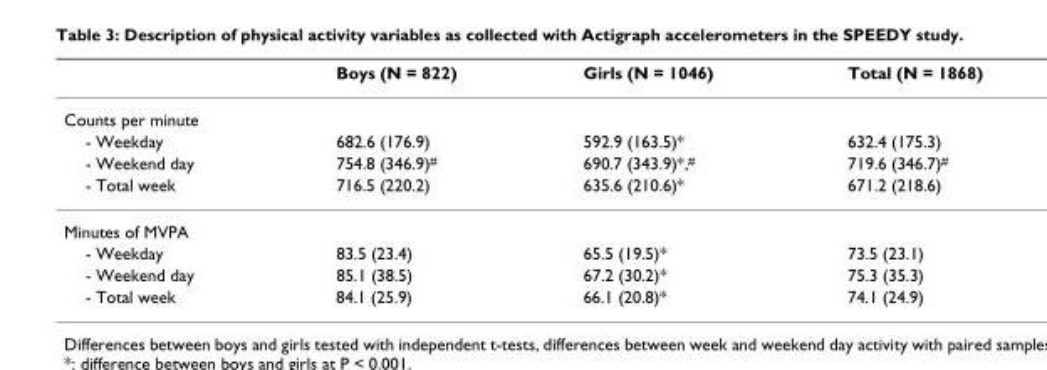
<table><thead><tr><td></td><td>Boys (N = 822)</td><td>Girls (N = 1046)</td><td>Total (N = 1868)</td></tr></thead><tbody><tr><td colspan="4">Counts per minute</td></tr><tr><td>- Weekday</td><td>682.6 (176.9)</td><td>592.9 (163.5)*</td><td>632.4 (175.3)</td></tr><tr><td>- Weekend day</td><td>754.8 (346.9)<sup>#</sup></td><td>690.7 (343.9)*,<sup>#</sup></td><td>719.6 (346.7)<sup>#</sup></td></tr><tr><td>- Total week</td><td>716.5 (220.2)</td><td>635.6 (210.6)*</td><td>671.2 (218.6)</td></tr><tr><td colspan="4">Minutes of MVPA</td></tr><tr><td>- Weekday</td><td>83.5 (23.4)</td><td>65.5 (19.5)*</td><td>73.5 (23.1)</td></tr><tr><td>- Weekend day</td><td>85.1 (38.5)</td><td>67.2 (30.2)*</td><td>75.3 (35.3)</td></tr><tr><td>- Total week</td><td>84.1 (25.9)</td><td>66.1 (20.8)*</td><td>74.1 (24.9)</td></tr></tbody></table>